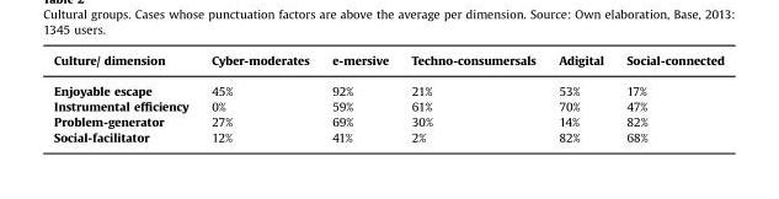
<table><thead><tr><td>Culture/ dimension</td><td>Cyber-moderates</td><td>e-mersive</td><td>Techno-consumersals</td><td>Adigital</td><td>Social-connected</td></tr></thead><tbody><tr><td>Enjoyable escape</td><td>45%</td><td>92%</td><td>21%</td><td>53%</td><td>17%</td></tr><tr><td>Instrumental efficiency</td><td>0%</td><td>59%</td><td>61%</td><td>70%</td><td>47%</td></tr><tr><td>Problem-generator</td><td>27%</td><td>69%</td><td>30%</td><td>14%</td><td>82%</td></tr><tr><td>Social-facilitator</td><td>12%</td><td>41%</td><td>2%</td><td>82%</td><td>68%</td></tr></tbody></table>